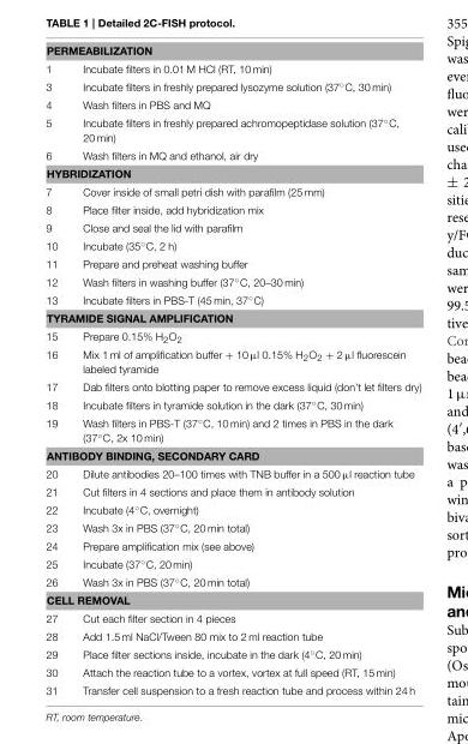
<table><tbody><tr><td colspan="2">PERMEABILIZATION</td></tr><tr><td>1</td><td>Incubate filters in 0.01 M HCl (RT, 10 min)</td></tr><tr><td>3</td><td>Incubate filters in freshly prepared lysozyme solution (37◦C, 30 min)</td></tr><tr><td>4</td><td>Wash filters in PBS and MQ</td></tr><tr><td>5</td><td>Incubate filters in freshly prepared achromopeptidase solution (37◦C, 20 min)</td></tr><tr><td>6</td><td>Wash filters in MQ and ethanol, air dry</td></tr><tr><td colspan="2">HYBRIDIZATION</td></tr><tr><td>7</td><td>Cover inside of small petri dish with parafilm (25 mm)</td></tr><tr><td>8</td><td>Place filter inside, add hybridization mix</td></tr><tr><td>9</td><td>Close and seal the lid with parafilm</td></tr><tr><td>10</td><td>Incubate (35◦C, 2 h)</td></tr><tr><td>11</td><td>Prepare and preheat washing buffer</td></tr><tr><td>12</td><td>Wash filters in washing buffer (37◦C, 20–30 min)</td></tr><tr><td>13</td><td>Incubate filters in PBS-T (45 min, 37◦C)</td></tr><tr><td colspan="2">TYRAMIDE SIGNAL AMPLIFICATION</td></tr><tr><td>15</td><td>Prepare 0.15% H<sub>2</sub>O<sub>2</sub></td></tr><tr><td>16</td><td>Mix 1 ml of amplification buffer + 10 µl 0.15% H<sub>2</sub>O<sub>2</sub> + 2 µl fluorescein labeled tyramide</td></tr><tr><td>17</td><td>Dab filters onto blotting paper to remove excess liquid (don’t let filters dry)</td></tr><tr><td>18</td><td>Incubate filters in tyramide solution in the dark (37◦C, 30 min)</td></tr><tr><td>19</td><td>Wash filters in PBS-T (37◦C, 10 min) and 2 times in PBS in the dark (37◦C, 2x 10 min)</td></tr><tr><td colspan="2">ANTIBODY BINDING, SECONDARY CARD</td></tr><tr><td>20</td><td>Dilute antibodies 20–100 times with TNB buffer in a 500 µl reaction tube</td></tr><tr><td>21</td><td>Cut filters in 4 sections and place them in antibody solution</td></tr><tr><td>22</td><td>Incubate (4◦C, overnight)</td></tr><tr><td>23</td><td>Wash 3x in PBS (37◦C, 20 min total)</td></tr><tr><td>24</td><td>Prepare amplification mix (see above)</td></tr><tr><td>25</td><td>Incubate (37◦C, 20 min)</td></tr><tr><td>26</td><td>Wash 3x in PBS (37◦C, 20 min total)</td></tr><tr><td colspan="2">CELL REMOVAL</td></tr><tr><td>27</td><td>Cut each filter section in 4 pieces</td></tr><tr><td>28</td><td>Add 1.5 ml NaCl/Tween 80 mix to 2 ml reaction tube</td></tr><tr><td>29</td><td>Place filter sections inside, incubate in the dark (4◦C, 20 min)</td></tr><tr><td>30</td><td>Attach the reaction tube to a vortex, vortex at full speed (RT, 15 min)</td></tr><tr><td>31</td><td>Transfer cell suspension to a fresh reaction tube and process within 24 h</td></tr></tbody></table>